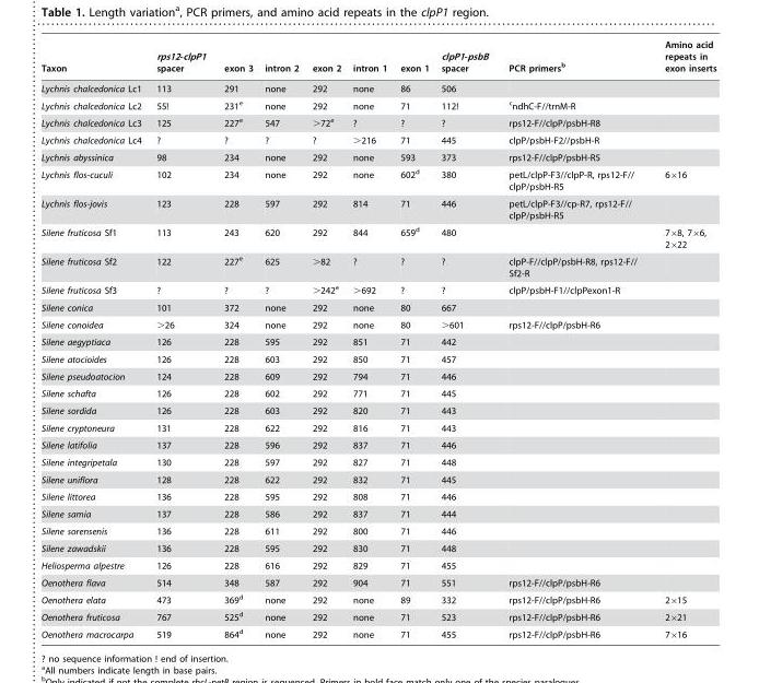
<table><thead><tr><td>Taxon</td><td>rps12-clpP1 spacer</td><td>exon 3</td><td>intron 2</td><td>exon 2</td><td>intron 1</td><td>exon 1</td><td>clpP1-psbB spacer</td><td>PCR primers<sup>b</sup></td><td>Amino acid repeats in exon inserts</td></tr></thead><tbody><tr><td>Lychnis chalcedonica Lc1</td><td>113</td><td>291</td><td>none</td><td>292</td><td>none</td><td>86</td><td>506</td><td></td><td></td></tr><tr><td>Lychnis chalcedonica Lc2</td><td>55!</td><td>231<sup>e</sup></td><td>none</td><td>292</td><td>none</td><td>71</td><td>112!</td><td>cndhC-F//trnM-R</td><td></td></tr><tr><td>Lychnis chalcedonica Lc3</td><td>125</td><td>227<sup>e</sup></td><td>547</td><td>&gt;72<sup>e</sup></td><td>?</td><td>?</td><td>?</td><td>rps12-F//clpP/psbH-R8</td><td></td></tr><tr><td>Lychnis chalcedonica Lc4</td><td>?</td><td>?</td><td>?</td><td>?</td><td>&gt;216</td><td>71</td><td>445</td><td>clpP/psbH-F2//psbH-R</td><td></td></tr><tr><td>Lychnis abyssinica</td><td>98</td><td>234</td><td>none</td><td>292</td><td>none</td><td>593</td><td>373</td><td>rps12-F//clpP/psbH-R5</td><td></td></tr><tr><td>Lychnis flos-cuculi</td><td>102</td><td>234</td><td>none</td><td>292</td><td>none</td><td>602<sup>d</sup></td><td>380</td><td>petL/clpP-F3//clpP-R, rps12-F// clpP/psbH-R5</td><td>6×16</td></tr><tr><td>Lychnis flos-jovis</td><td>123</td><td>228</td><td>597</td><td>292</td><td>814</td><td>71</td><td>446</td><td>petL/clpP-F3//cp-R7, rps12-F// clpP/psbH-R5</td><td></td></tr><tr><td>Silene fruticosa Sf1</td><td>113</td><td>243</td><td>620</td><td>292</td><td>844</td><td>659<sup>d</sup></td><td>480</td><td></td><td>7×8, 7×6, 2×22</td></tr><tr><td>Silene fruticosa Sf2</td><td>122</td><td>227<sup>e</sup></td><td>625</td><td>&gt;82</td><td>?</td><td>?</td><td>?</td><td>clpP-F//clpP/psbH-R8, rps12-F// Sf2-R</td><td></td></tr><tr><td>Silene fruticosa Sf3</td><td>?</td><td>?</td><td>?</td><td>&gt;242<sup>e</sup></td><td>&gt;692</td><td>?</td><td>?</td><td>clpP/psbH-F1//clpPexon1-R</td><td></td></tr><tr><td>Silene conica</td><td>101</td><td>372</td><td>none</td><td>292</td><td>none</td><td>80</td><td>667</td><td></td><td></td></tr><tr><td>Silene conoidea</td><td>&gt;26</td><td>324</td><td>none</td><td>292</td><td>none</td><td>80</td><td>&gt;601</td><td>rps12-F//clpP/psbH-R6</td><td></td></tr><tr><td>Silene aegyptiaca</td><td>126</td><td>228</td><td>595</td><td>292</td><td>851</td><td>71</td><td>442</td><td></td><td></td></tr><tr><td>Silene atocioides</td><td>126</td><td>228</td><td>603</td><td>292</td><td>850</td><td>71</td><td>457</td><td></td><td></td></tr><tr><td>Silene pseudoatocion</td><td>124</td><td>228</td><td>609</td><td>292</td><td>794</td><td>71</td><td>446</td><td></td><td></td></tr><tr><td>Silene schafta</td><td>126</td><td>228</td><td>602</td><td>292</td><td>771</td><td>71</td><td>445</td><td></td><td></td></tr><tr><td>Silene sordida</td><td>126</td><td>228</td><td>603</td><td>292</td><td>820</td><td>71</td><td>443</td><td></td><td></td></tr><tr><td>Silene cryptoneura</td><td>131</td><td>228</td><td>622</td><td>292</td><td>816</td><td>71</td><td>443</td><td></td><td></td></tr><tr><td>Silene latifolia</td><td>137</td><td>228</td><td>596</td><td>292</td><td>837</td><td>71</td><td>446</td><td></td><td></td></tr><tr><td>Silene integripetala</td><td>130</td><td>228</td><td>597</td><td>292</td><td>827</td><td>71</td><td>448</td><td></td><td></td></tr><tr><td>Silene uniflora</td><td>128</td><td>228</td><td>622</td><td>292</td><td>832</td><td>71</td><td>445</td><td></td><td></td></tr><tr><td>Silene littorea</td><td>136</td><td>228</td><td>595</td><td>292</td><td>808</td><td>71</td><td>446</td><td></td><td></td></tr><tr><td>Silene samia</td><td>137</td><td>228</td><td>586</td><td>292</td><td>837</td><td>71</td><td>444</td><td></td><td></td></tr><tr><td>Silene sorensenis</td><td>136</td><td>228</td><td>611</td><td>292</td><td>800</td><td>71</td><td>446</td><td></td><td></td></tr><tr><td>Silene zawadskii</td><td>136</td><td>228</td><td>595</td><td>292</td><td>830</td><td>71</td><td>448</td><td></td><td></td></tr><tr><td>Heliosperma alpestre</td><td>126</td><td>228</td><td>616</td><td>292</td><td>829</td><td>71</td><td>455</td><td></td><td></td></tr><tr><td>Oenothera flava</td><td>514</td><td>348</td><td>587</td><td>292</td><td>904</td><td>71</td><td>551</td><td>rps12-F//clpP/psbH-R6</td><td></td></tr><tr><td>Oenothera elata</td><td>473</td><td>369<sup>d</sup></td><td>none</td><td>292</td><td>none</td><td>89</td><td>332</td><td>rps12-F//clpP/psbH-R6</td><td>2×15</td></tr><tr><td>Oenothera fruticosa</td><td>767</td><td>525<sup>d</sup></td><td>none</td><td>292</td><td>none</td><td>71</td><td>523</td><td>rps12-F//clpP/psbH-R6</td><td>2×21</td></tr><tr><td>Oenothera macrocarpa</td><td>519</td><td>864<sup>d</sup></td><td>none</td><td>292</td><td>none</td><td>71</td><td>455</td><td>rps12-F//clpP/psbH-R6</td><td>7×16</td></tr></tbody></table>